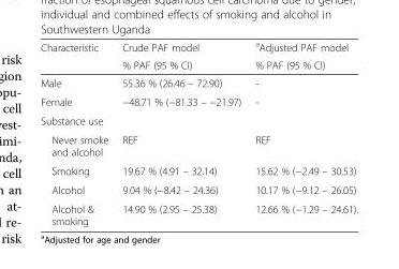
<table><thead><tr><td rowspan="2">Characteristic</td><td rowspan="2">Crude PAF model % PAF (95 % CI)</td><td rowspan="2"><sup>a</sup>Adjusted PAF model % PAF (95 % CI)</td></tr><tr></tr></thead><tbody><tr><td>Male</td><td>55.36 % (26.46 – 72.90)</td><td>-</td></tr><tr><td>Female</td><td>−48.71 % (−81.33 – −21.97)</td><td>-</td></tr><tr><td colspan="3">Substance use</td></tr><tr><td>Never smoke and alcohol</td><td>REF</td><td>REF</td></tr><tr><td>Smoking</td><td>19.67 % (4.91 – 32.14)</td><td>15.62 % (−2.49 – 30.53)</td></tr><tr><td>Alcohol</td><td>9.04 % (−8.42 – 24.36)</td><td>10.17 % (−9.12 – 26.05)</td></tr><tr><td>Alcohol &amp; smoking</td><td>14.90 % (2.95 – 25.38)</td><td>12.66 % (−1.29 – 24.61).</td></tr></tbody></table>